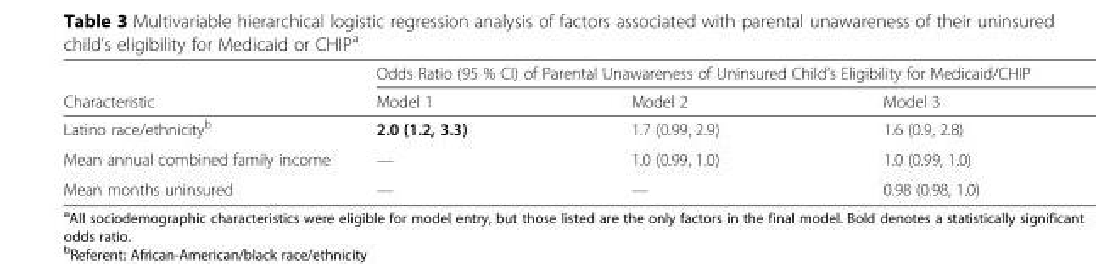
<table><thead><tr><td rowspan="2">Characteristic</td><td colspan="3">Odds Ratio (95 % CI) of Parental Unawareness of Uninsured Child’s Eligibility for Medicaid/CHIP</td></tr><tr><td>Model 1</td><td>Model 2</td><td>Model 3</td></tr></thead><tbody><tr><td>Latino race/ethnicity<sup>b</sup></td><td>2.0 (1.2, 3.3)</td><td>1.7 (0.99, 2.9)</td><td>1.6 (0.9, 2.8)</td></tr><tr><td>Mean annual combined family income</td><td>—</td><td>1.0 (0.99, 1.0)</td><td>1.0 (0.99, 1.0)</td></tr><tr><td>Mean months uninsured</td><td>—</td><td>—</td><td>0.98 (0.98, 1.0)</td></tr></tbody></table>